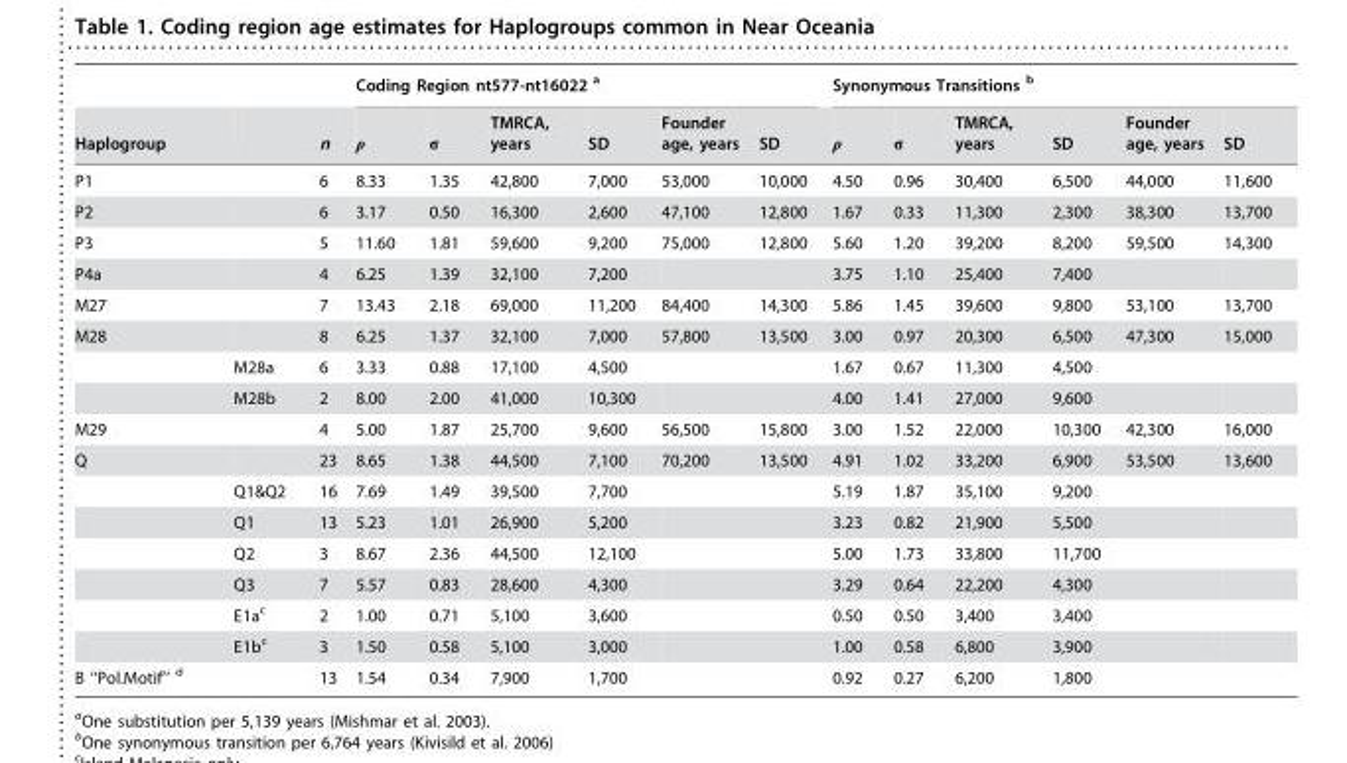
<table><thead><tr><td rowspan="2">Haplogroup</td><td rowspan="2"></td><td rowspan="2">n</td><td colspan="6">Coding Region nt577-nt16022 a</td><td colspan="6">Synonymous Transitions b</td></tr><tr><td>ρ</td><td>σ</td><td>TMRCA, years</td><td>SD</td><td>Founder age, years</td><td>SD</td><td>ρ</td><td>σ</td><td>TMRCA, years</td><td>SD</td><td>Founder age, years</td><td>SD</td></tr></thead><tbody><tr><td>P1</td><td></td><td>6</td><td>8.33</td><td>1.35</td><td>42,800</td><td>7,000</td><td>53,000</td><td>10,000</td><td>4.50</td><td>0.96</td><td>30,400</td><td>6,500</td><td>44,000</td><td>11,600</td></tr><tr><td>P2</td><td></td><td>6</td><td>3.17</td><td>0.50</td><td>16,300</td><td>2,600</td><td>47,100</td><td>12,800</td><td>1.67</td><td>0.33</td><td>11,300</td><td>2,300</td><td>38,300</td><td>13,700</td></tr><tr><td>P3</td><td></td><td>5</td><td>11.60</td><td>1.81</td><td>59,600</td><td>9,200</td><td>75,000</td><td>12,800</td><td>5.60</td><td>1.20</td><td>39,200</td><td>8,200</td><td>59,500</td><td>14,300</td></tr><tr><td>P4a</td><td></td><td>4</td><td>6.25</td><td>1.39</td><td>32,100</td><td>7,200</td><td></td><td></td><td>3.75</td><td>1.10</td><td>25,400</td><td>7,400</td><td></td><td></td></tr><tr><td>M27</td><td></td><td>7</td><td>13.43</td><td>2.18</td><td>69,000</td><td>11,200</td><td>84,400</td><td>14,300</td><td>5.86</td><td>1.45</td><td>39,600</td><td>9,800</td><td>53,100</td><td>13,700</td></tr><tr><td rowspan="3">M28</td><td></td><td>8</td><td>6.25</td><td>1.37</td><td>32,100</td><td>7,000</td><td>57,800</td><td>13,500</td><td>3.00</td><td>0.97</td><td>20,300</td><td>6,500</td><td>47,300</td><td>15,000</td></tr><tr><td>M28a</td><td>6</td><td>3.33</td><td>0.88</td><td>17,100</td><td>4,500</td><td></td><td></td><td>1.67</td><td>0.67</td><td>11,300</td><td>4,500</td><td></td><td></td></tr><tr><td>M28b</td><td>2</td><td>8.00</td><td>2.00</td><td>41,000</td><td>10,300</td><td></td><td></td><td>4.00</td><td>1.41</td><td>27,000</td><td>9,600</td><td></td><td></td></tr><tr><td>M29</td><td></td><td>4</td><td>5.00</td><td>1.87</td><td>25,700</td><td>9,600</td><td>56,500</td><td>15,800</td><td>3.00</td><td>1.52</td><td>22,000</td><td>10,300</td><td>42,300</td><td>16,000</td></tr><tr><td rowspan="7">Q</td><td></td><td>23</td><td>8.65</td><td>1.38</td><td>44,500</td><td>7,100</td><td>70,200</td><td>13,500</td><td>4.91</td><td>1.02</td><td>33,200</td><td>6,900</td><td>53,500</td><td>13,600</td></tr><tr><td>Q1&amp;Q2</td><td>16</td><td>7.69</td><td>1.49</td><td>39,500</td><td>7,700</td><td></td><td></td><td>5.19</td><td>1.87</td><td>35,100</td><td>9,200</td><td></td><td></td></tr><tr><td>Q1</td><td>13</td><td>5.23</td><td>1.01</td><td>26,900</td><td>5,200</td><td></td><td></td><td>3.23</td><td>0.82</td><td>21,900</td><td>5,500</td><td></td><td></td></tr><tr><td>Q2</td><td>3</td><td>8.67</td><td>2.36</td><td>44,500</td><td>12,100</td><td></td><td></td><td>5.00</td><td>1.73</td><td>33,800</td><td>11,700</td><td></td><td></td></tr><tr><td>Q3</td><td>7</td><td>5.57</td><td>0.83</td><td>28,600</td><td>4,300</td><td></td><td></td><td>3.29</td><td>0.64</td><td>22,200</td><td>4,300</td><td></td><td></td></tr><tr><td>E1a<sup>c</sup></td><td>2</td><td>1.00</td><td>0.71</td><td>5,100</td><td>3,600</td><td></td><td></td><td>0.50</td><td>0.50</td><td>3,400</td><td>3,400</td><td></td><td></td></tr><tr><td>E1b<sup>c</sup></td><td>3</td><td>1.50</td><td>0.58</td><td>5,100</td><td>3,000</td><td></td><td></td><td>1.00</td><td>0.58</td><td>6,800</td><td>3,900</td><td></td><td></td></tr><tr><td colspan="2">B ‘‘Pol.Motif’’ d</td><td>13</td><td>1.54</td><td>0.34</td><td>7,900</td><td>1,700</td><td></td><td></td><td>0.92</td><td>0.27</td><td>6,200</td><td>1,800</td><td></td><td></td></tr></tbody></table>